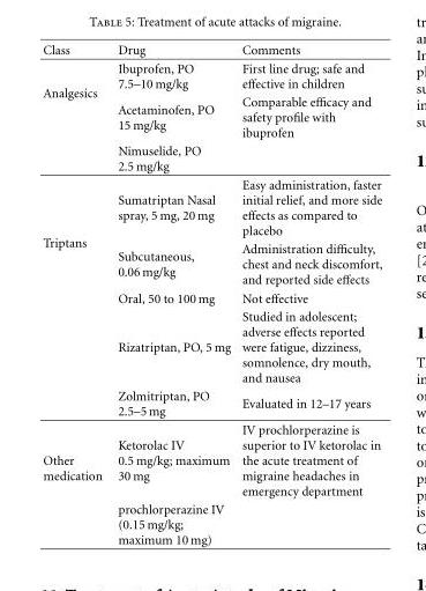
<table><thead><tr><td>Class</td><td>Drug</td><td>Comments</td></tr></thead><tbody><tr><td rowspan="3">Analgesics</td><td>Ibuprofen, PO 7.5–10 mg/kg</td><td>First line drug; safe and effective in children</td></tr><tr><td>Acetaminofen, PO 15 mg/kg</td><td>Comparable efficacy and safety profile with ibuprofen</td></tr><tr><td>Nimuselide, PO 2.5 mg/kg</td><td></td></tr><tr><td rowspan="5">Triptans</td><td>Sumatriptan Nasal spray, 5 mg, 20 mg</td><td>Easy administration, faster initial relief, and more side effects as compared to placebo</td></tr><tr><td>Subcutaneous, 0.06 mg/kg</td><td>Administration difficulty, chest and neck discomfort, and reported side effects</td></tr><tr><td>Oral, 50 to 100 mg</td><td>Not effective</td></tr><tr><td>Rizatriptan, PO, 5 mg</td><td>Studied in adolescent; adverse effects reported were fatigue, dizziness, somnolence, dry mouth, and nausea</td></tr><tr><td>Zolmitriptan, PO 2.5–5 mg</td><td>Evaluated in 12–17 years</td></tr><tr><td rowspan="2">Other medication</td><td>Ketorolac IV 0.5 mg/kg; maximum 30 mg</td><td>IV prochlorperazine is superior to IV ketorolac in the acute treatment of migraine headaches in emergency department</td></tr><tr><td>prochlorperazine IV (0.15 mg/kg; maximum 10 mg)</td><td></td></tr></tbody></table>